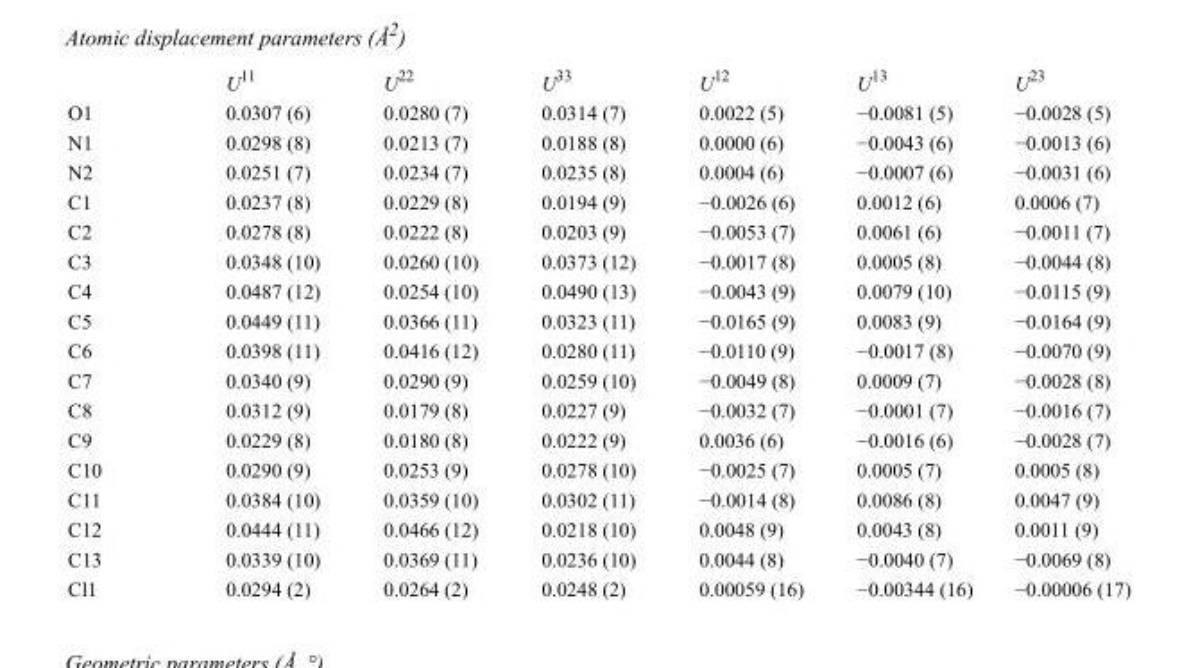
<table><thead><tr><td></td><td>U<sup>11</sup></td><td>U<sup>22</sup></td><td>U<sup>33</sup></td><td>U<sup>12</sup></td><td>U<sup>13</sup></td><td>U<sup>23</sup></td></tr></thead><tbody><tr><td>O1</td><td>0.0307 (6)</td><td>0.0280 (7)</td><td>0.0314 (7)</td><td>0.0022 (5)</td><td>−0.0081 (5)</td><td>−0.0028 (5)</td></tr><tr><td>N1</td><td>0.0298 (8)</td><td>0.0213 (7)</td><td>0.0188 (8)</td><td>0.0000 (6)</td><td>−0.0043 (6)</td><td>−0.0013 (6)</td></tr><tr><td>N2</td><td>0.0251 (7)</td><td>0.0234 (7)</td><td>0.0235 (8)</td><td>0.0004 (6)</td><td>−0.0007 (6)</td><td>−0.0031 (6)</td></tr><tr><td>C1</td><td>0.0237 (8)</td><td>0.0229 (8)</td><td>0.0194 (9)</td><td>−0.0026 (6)</td><td>0.0012 (6)</td><td>0.0006 (7)</td></tr><tr><td>C2</td><td>0.0278 (8)</td><td>0.0222 (8)</td><td>0.0203 (9)</td><td>−0.0053 (7)</td><td>0.0061 (6)</td><td>−0.0011 (7)</td></tr><tr><td>C3</td><td>0.0348 (10)</td><td>0.0260 (10)</td><td>0.0373 (12)</td><td>−0.0017 (8)</td><td>0.0005 (8)</td><td>−0.0044 (8)</td></tr><tr><td>C4</td><td>0.0487 (12)</td><td>0.0254 (10)</td><td>0.0490 (13)</td><td>−0.0043 (9)</td><td>0.0079 (10)</td><td>−0.0115 (9)</td></tr><tr><td>C5</td><td>0.0449 (11)</td><td>0.0366 (11)</td><td>0.0323 (11)</td><td>−0.0165 (9)</td><td>0.0083 (9)</td><td>−0.0164 (9)</td></tr><tr><td>C6</td><td>0.0398 (11)</td><td>0.0416 (12)</td><td>0.0280 (11)</td><td>−0.0110 (9)</td><td>−0.0017 (8)</td><td>−0.0070 (9)</td></tr><tr><td>C7</td><td>0.0340 (9)</td><td>0.0290 (9)</td><td>0.0259 (10)</td><td>−0.0049 (8)</td><td>0.0009 (7)</td><td>−0.0028 (8)</td></tr><tr><td>C8</td><td>0.0312 (9)</td><td>0.0179 (8)</td><td>0.0227 (9)</td><td>−0.0032 (7)</td><td>−0.0001 (7)</td><td>−0.0016 (7)</td></tr><tr><td>C9</td><td>0.0229 (8)</td><td>0.0180 (8)</td><td>0.0222 (9)</td><td>0.0036 (6)</td><td>−0.0016 (6)</td><td>−0.0028 (7)</td></tr><tr><td>C10</td><td>0.0290 (9)</td><td>0.0253 (9)</td><td>0.0278 (10)</td><td>−0.0025 (7)</td><td>0.0005 (7)</td><td>0.0005 (8)</td></tr><tr><td>C11</td><td>0.0384 (10)</td><td>0.0359 (10)</td><td>0.0302 (11)</td><td>−0.0014 (8)</td><td>0.0086 (8)</td><td>0.0047 (9)</td></tr><tr><td>C12</td><td>0.0444 (11)</td><td>0.0466 (12)</td><td>0.0218 (10)</td><td>0.0048 (9)</td><td>0.0043 (8)</td><td>0.0011 (9)</td></tr><tr><td>C13</td><td>0.0339 (10)</td><td>0.0369 (11)</td><td>0.0236 (10)</td><td>0.0044 (8)</td><td>−0.0040 (7)</td><td>−0.0069 (8)</td></tr><tr><td>Cl1</td><td>0.0294 (2)</td><td>0.0264 (2)</td><td>0.0248 (2)</td><td>0.00059 (16)</td><td>−0.00344 (16)</td><td>−0.00006 (17)</td></tr></tbody></table>